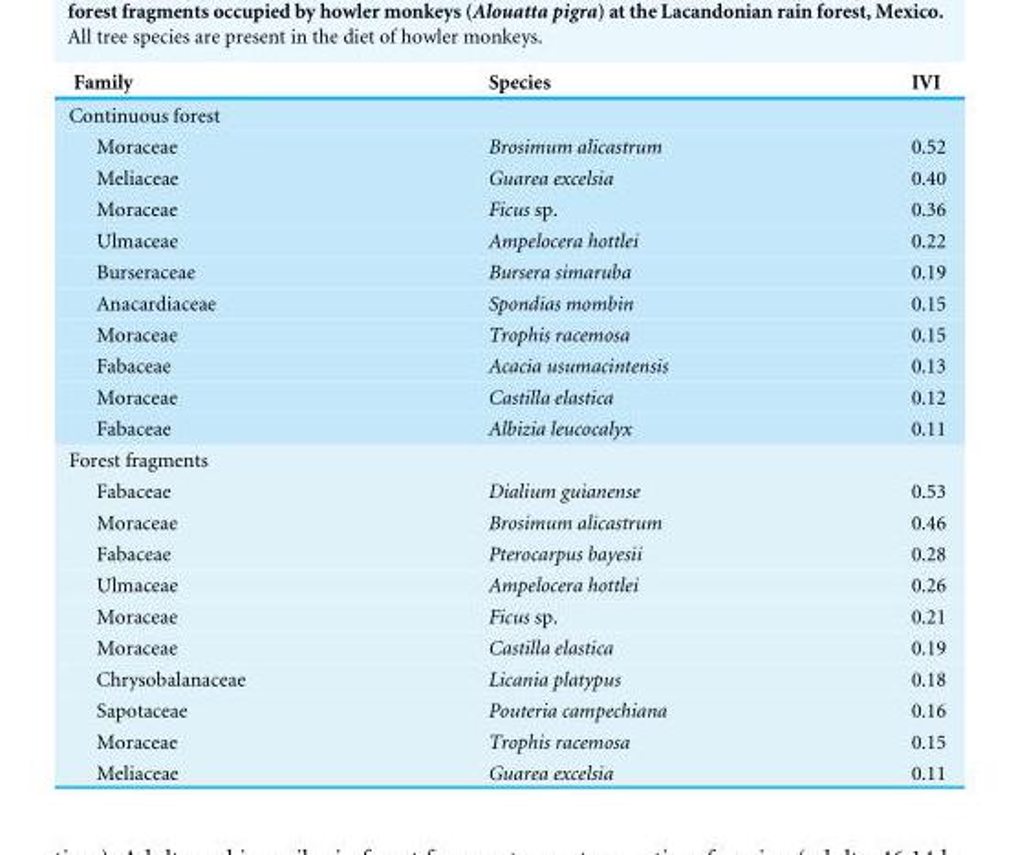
<table><thead><tr><td>Family</td><td>Species</td><td>IVI</td></tr></thead><tbody><tr><td colspan="3">Continuous forest</td></tr><tr><td>Moraceae</td><td>Brosimum alicastrum</td><td>0.52</td></tr><tr><td>Meliaceae</td><td>Guarea excelsia</td><td>0.40</td></tr><tr><td>Moraceae</td><td>Ficus sp.</td><td>0.36</td></tr><tr><td>Ulmaceae</td><td>Ampelocera hottlei</td><td>0.22</td></tr><tr><td>Burseraceae</td><td>Bursera simaruba</td><td>0.19</td></tr><tr><td>Anacardiaceae</td><td>Spondias mombin</td><td>0.15</td></tr><tr><td>Moraceae</td><td>Trophis racemosa</td><td>0.15</td></tr><tr><td>Fabaceae</td><td>Acacia usumacintensis</td><td>0.13</td></tr><tr><td>Moraceae</td><td>Castilla elastica</td><td>0.12</td></tr><tr><td>Fabaceae</td><td>Albizia leucocalyx</td><td>0.11</td></tr><tr><td colspan="3">Forest fragments</td></tr><tr><td>Fabaceae</td><td>Dialium guianense</td><td>0.53</td></tr><tr><td>Moraceae</td><td>Brosimum alicastrum</td><td>0.46</td></tr><tr><td>Fabaceae</td><td>Pterocarpus bayesii</td><td>0.28</td></tr><tr><td>Ulmaceae</td><td>Ampelocera hottlei</td><td>0.26</td></tr><tr><td>Moraceae</td><td>Ficus sp.</td><td>0.21</td></tr><tr><td>Moraceae</td><td>Castilla elastica</td><td>0.19</td></tr><tr><td>Chrysobalanaceae</td><td>Licania platypus</td><td>0.18</td></tr><tr><td>Sapotaceae</td><td>Pouteria campechiana</td><td>0.16</td></tr><tr><td>Moraceae</td><td>Trophis racemosa</td><td>0.15</td></tr><tr><td>Meliaceae</td><td>Guarea excelsia</td><td>0.11</td></tr></tbody></table>